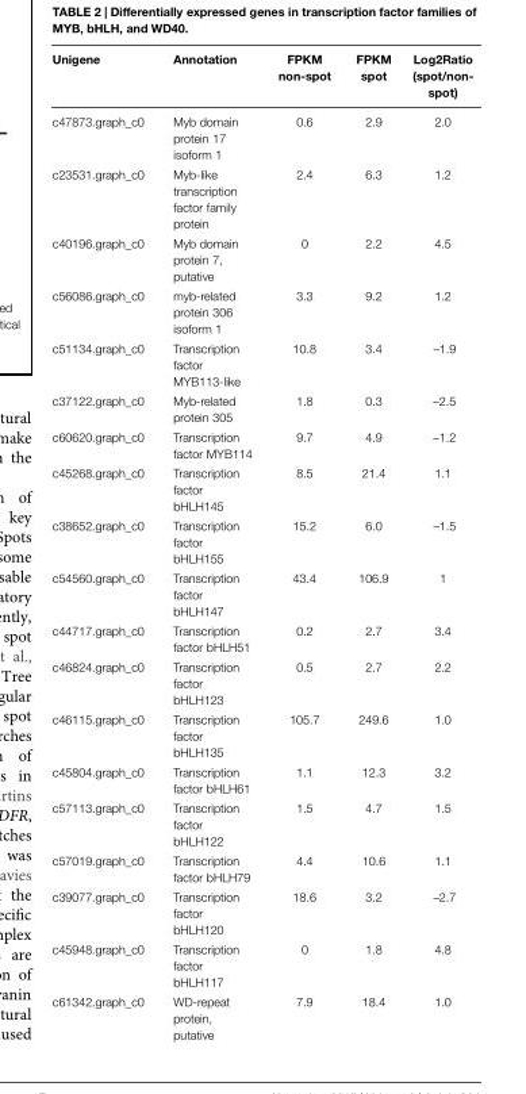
<table><thead><tr><td>Unigene</td><td>Annotation</td><td>FPKM non-spot</td><td>FPKM spot</td><td>Log2Ratio (spot/non- spot)</td></tr></thead><tbody><tr><td>c47873.graph_c0</td><td>Myb domain protein 17 isoform 1</td><td>0.6</td><td>2.9</td><td>2.0</td></tr><tr><td>c23531.graph_c0</td><td>Myb-like transcription factor family protein</td><td>2.4</td><td>6.3</td><td>1.2</td></tr><tr><td>c40196.graph_c0</td><td>Myb domain protein 7, putative</td><td>0</td><td>2.2</td><td>4.5</td></tr><tr><td>c56086.graph_c0</td><td>myb-related protein 306 isoform 1</td><td>3.3</td><td>9.2</td><td>1.2</td></tr><tr><td>c51134.graph_c0</td><td>Transcription factor MYB113-like</td><td>10.8</td><td>3.4</td><td>–1.9</td></tr><tr><td>c37122.graph_c0</td><td>Myb-related protein 305</td><td>1.8</td><td>0.3</td><td>–2.5</td></tr><tr><td>c60620.graph_c0</td><td>Transcription factor MYB114</td><td>9.7</td><td>4.9</td><td>–1.2</td></tr><tr><td>c45268.graph_c0</td><td>Transcription factor bHLH145</td><td>8.5</td><td>21.4</td><td>1.1</td></tr><tr><td>c38652.graph_c0</td><td>Transcription factor bHLH155</td><td>15.2</td><td>6.0</td><td>–1.5</td></tr><tr><td>c54560.graph_c0</td><td>Transcription factor bHLH147</td><td>43.4</td><td>106.9</td><td>1</td></tr><tr><td>c44717.graph_c0</td><td>Transcription factor bHLH51</td><td>0.2</td><td>2.7</td><td>3.4</td></tr><tr><td>c46824.graph_c0</td><td>Transcription factor bHLH123</td><td>0.5</td><td>2.7</td><td>2.2</td></tr><tr><td>c46115.graph_c0</td><td>Transcription factor bHLH135</td><td>105.7</td><td>249.6</td><td>1.0</td></tr><tr><td>c45804.graph_c0</td><td>Transcription factor bHLH61</td><td>1.1</td><td>12.3</td><td>3.2</td></tr><tr><td>c57113.graph_c0</td><td>Transcription factor bHLH122</td><td>1.5</td><td>4.7</td><td>1.5</td></tr><tr><td>c57019.graph_c0</td><td>Transcription factor bHLH79</td><td>4.4</td><td>10.6</td><td>1.1</td></tr><tr><td>c39077.graph_c0</td><td>Transcription factor bHLH120</td><td>18.6</td><td>3.2</td><td>–2.7</td></tr><tr><td>c45948.graph_c0</td><td>Transcription factor bHLH117</td><td>0</td><td>1.8</td><td>4.8</td></tr><tr><td>c61342.graph_c0</td><td>WD-repeat protein, putative</td><td>7.9</td><td>18.4</td><td>1.0</td></tr></tbody></table>